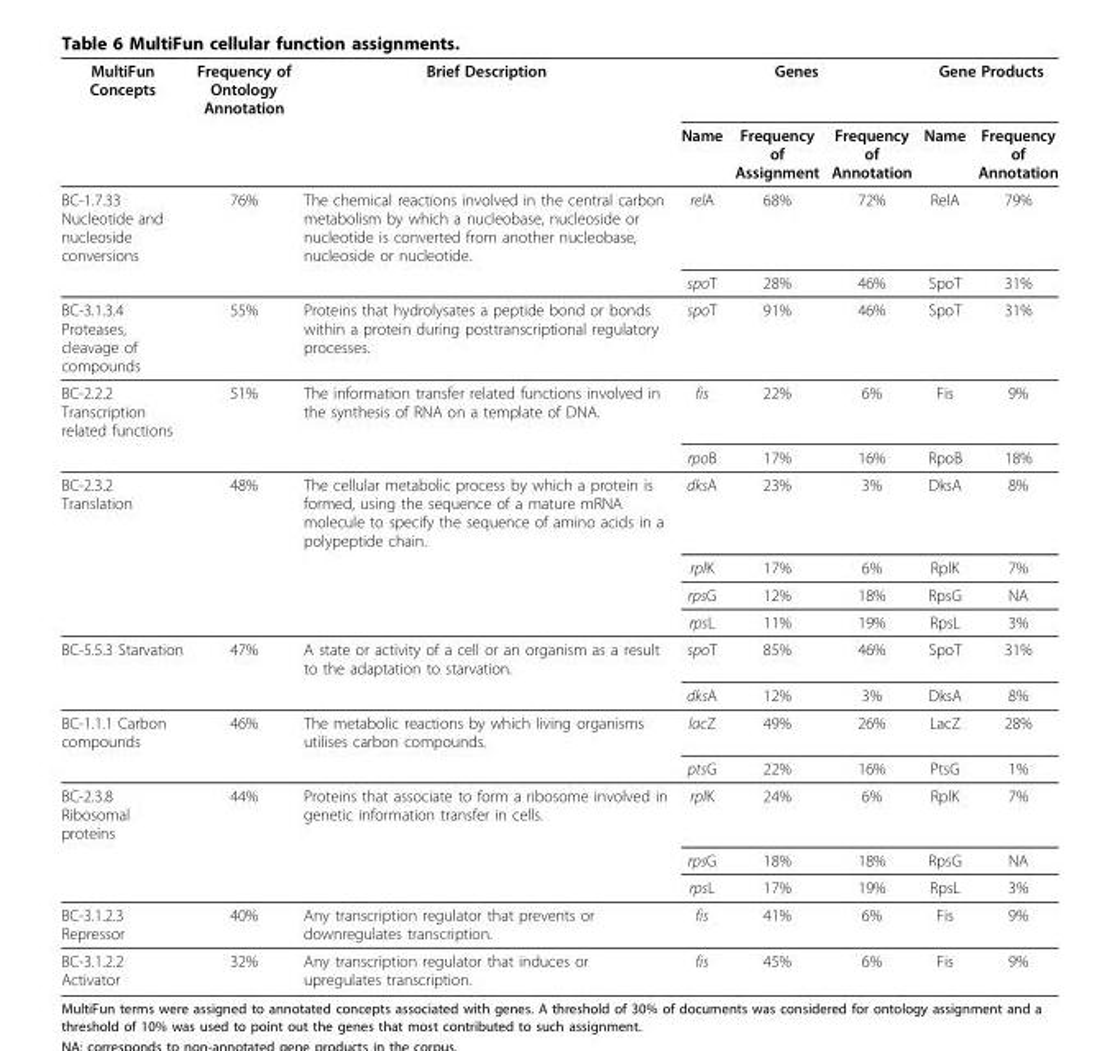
<table><thead><tr><td rowspan="2">MultiFun Concepts</td><td rowspan="2">Frequency of Ontology Annotation</td><td rowspan="2">Brief Description</td><td colspan="3">Genes</td><td colspan="2">Gene Products</td></tr><tr><td>Name</td><td>Frequency of Assignment</td><td>Frequency of Annotation</td><td>Name</td><td>Frequency of Annotation</td></tr></thead><tbody><tr><td rowspan="2">BC-1.7.33 Nucleotide and nucleoside conversions</td><td>76%</td><td>The chemical reactions involved in the central carbon metabolism by which a nucleobase, nucleoside or nucleotide is converted from another nucleobase, nucleoside or nucleotide.</td><td>relA</td><td>68%</td><td>72%</td><td>RelA</td><td>79%</td></tr><tr><td></td><td></td><td>spoT</td><td>28%</td><td>46%</td><td>SpoT</td><td>31%</td></tr><tr><td>BC-3.1.3.4 Proteases, cleavage of compounds</td><td>55%</td><td>Proteins that hydrolysates a peptide bond or bonds within a protein during posttranscriptional regulatory processes.</td><td>spoT</td><td>91%</td><td>46%</td><td>SpoT</td><td>31%</td></tr><tr><td rowspan="2">BC-2.2.2 Transcription related functions</td><td>51%</td><td>The information transfer related functions involved in the synthesis of RNA on a template of DNA.</td><td>fis</td><td>22%</td><td>6%</td><td>Fis</td><td>9%</td></tr><tr><td></td><td></td><td>rpoB</td><td>17%</td><td>16%</td><td>RpoB</td><td>18%</td></tr><tr><td rowspan="4">BC-2.3.2 Translation</td><td>48%</td><td>The cellular metabolic process by which a protein is formed, using the sequence of a mature mRNA molecule to specify the sequence of amino acids in a polypeptide chain.</td><td>dksA</td><td>23%</td><td>3%</td><td>DksA</td><td>8%</td></tr><tr><td></td><td></td><td>rplK</td><td>17%</td><td>6%</td><td>RplK</td><td>7%</td></tr><tr><td></td><td></td><td>rpsG</td><td>12%</td><td>18%</td><td>RpsG</td><td>NA</td></tr><tr><td></td><td></td><td>rpsL</td><td>11%</td><td>19%</td><td>RpsL</td><td>3%</td></tr><tr><td rowspan="2">BC-5.5.3 Starvation</td><td>47%</td><td>A state or activity of a cell or an organism as a result to the adaptation to starvation.</td><td>spoT</td><td>85%</td><td>46%</td><td>SpoT</td><td>31%</td></tr><tr><td></td><td></td><td>dksA</td><td>12%</td><td>3%</td><td>DksA</td><td>8%</td></tr><tr><td rowspan="2">BC-1.1.1 Carbon compounds</td><td>46%</td><td>The metabolic reactions by which living organisms utilises carbon compounds.</td><td>lacZ</td><td>49%</td><td>26%</td><td>LacZ</td><td>28%</td></tr><tr><td></td><td></td><td>ptsG</td><td>22%</td><td>16%</td><td>PtsG</td><td>1%</td></tr><tr><td rowspan="3">BC-2.3.8 Ribosomal proteins</td><td>44%</td><td>Proteins that associate to form a ribosome involved in genetic information transfer in cells.</td><td>rplK</td><td>24%</td><td>6%</td><td>RplK</td><td>7%</td></tr><tr><td></td><td></td><td>rpsG</td><td>18%</td><td>18%</td><td>RpsG</td><td>NA</td></tr><tr><td></td><td></td><td>rpsL</td><td>17%</td><td>19%</td><td>RpsL</td><td>3%</td></tr><tr><td>BC-3.1.2.3 Repressor</td><td>40%</td><td>Any transcription regulator that prevents or downregulates transcription.</td><td>fis</td><td>41%</td><td>6%</td><td>Fis</td><td>9%</td></tr><tr><td>BC-3.1.2.2 Activator</td><td>32%</td><td>Any transcription regulator that induces or upregulates transcription.</td><td>fis</td><td>45%</td><td>6%</td><td>Fis</td><td>9%</td></tr></tbody></table>